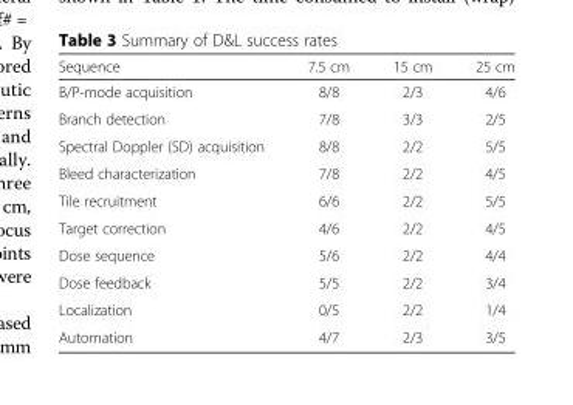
<table><thead><tr><td>Sequence</td><td>7.5 cm</td><td>15 cm</td><td>25 cm</td></tr></thead><tbody><tr><td>B/P-mode acquisition</td><td>8/8</td><td>2/3</td><td>4/6</td></tr><tr><td>Branch detection</td><td>7/8</td><td>3/3</td><td>2/5</td></tr><tr><td>Spectral Doppler (SD) acquisition</td><td>8/8</td><td>2/2</td><td>5/5</td></tr><tr><td>Bleed characterization</td><td>7/8</td><td>2/2</td><td>4/5</td></tr><tr><td>Tile recruitment</td><td>6/6</td><td>2/2</td><td>5/5</td></tr><tr><td>Target correction</td><td>4/6</td><td>2/2</td><td>4/5</td></tr><tr><td>Dose sequence</td><td>5/6</td><td>2/2</td><td>4/4</td></tr><tr><td>Dose feedback</td><td>5/5</td><td>2/2</td><td>3/4</td></tr><tr><td>Localization</td><td>0/5</td><td>2/2</td><td>1/4</td></tr><tr><td>Automation</td><td>4/7</td><td>2/3</td><td>3/5</td></tr></tbody></table>